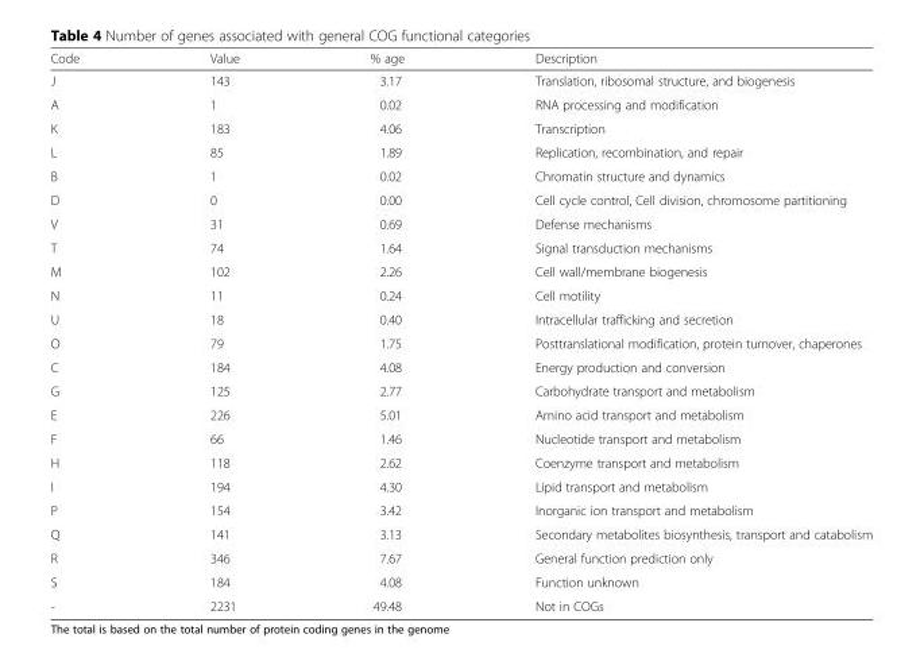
<table><thead><tr><td>Code</td><td>Value</td><td>% age</td><td>Description</td></tr></thead><tbody><tr><td>J</td><td>143</td><td>3.17</td><td>Translation, ribosomal structure, and biogenesis</td></tr><tr><td>A</td><td>1</td><td>0.02</td><td>RNA processing and modification</td></tr><tr><td>K</td><td>183</td><td>4.06</td><td>Transcription</td></tr><tr><td>L</td><td>85</td><td>1.89</td><td>Replication, recombination, and repair</td></tr><tr><td>B</td><td>1</td><td>0.02</td><td>Chromatin structure and dynamics</td></tr><tr><td>D</td><td>0</td><td>0.00</td><td>Cell cycle control, Cell division, chromosome partitioning</td></tr><tr><td>V</td><td>31</td><td>0.69</td><td>Defense mechanisms</td></tr><tr><td>T</td><td>74</td><td>1.64</td><td>Signal transduction mechanisms</td></tr><tr><td>M</td><td>102</td><td>2.26</td><td>Cell wall/membrane biogenesis</td></tr><tr><td>N</td><td>11</td><td>0.24</td><td>Cell motility</td></tr><tr><td>U</td><td>18</td><td>0.40</td><td>Intracellular trafficking and secretion</td></tr><tr><td>O</td><td>79</td><td>1.75</td><td>Posttranslational modification, protein turnover, chaperones</td></tr><tr><td>C</td><td>184</td><td>4.08</td><td>Energy production and conversion</td></tr><tr><td>G</td><td>125</td><td>2.77</td><td>Carbohydrate transport and metabolism</td></tr><tr><td>E</td><td>226</td><td>5.01</td><td>Amino acid transport and metabolism</td></tr><tr><td>F</td><td>66</td><td>1.46</td><td>Nucleotide transport and metabolism</td></tr><tr><td>H</td><td>118</td><td>2.62</td><td>Coenzyme transport and metabolism</td></tr><tr><td>I</td><td>194</td><td>4.30</td><td>Lipid transport and metabolism</td></tr><tr><td>P</td><td>154</td><td>3.42</td><td>Inorganic ion transport and metabolism</td></tr><tr><td>Q</td><td>141</td><td>3.13</td><td>Secondary metabolites biosynthesis, transport and catabolism</td></tr><tr><td>R</td><td>346</td><td>7.67</td><td>General function prediction only</td></tr><tr><td>S</td><td>184</td><td>4.08</td><td>Function unknown</td></tr><tr><td>-</td><td>2231</td><td>49.48</td><td>Not in COGs</td></tr></tbody></table>